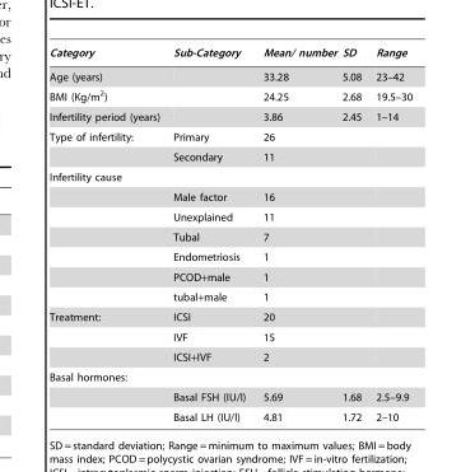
<table><thead><tr><td>Category</td><td>Sub-Category</td><td>Mean/ number</td><td>SD</td><td>Range</td></tr></thead><tbody><tr><td>Age (years)</td><td></td><td>33.28</td><td>5.08</td><td>23–42</td></tr><tr><td>BMI (Kg/m<sup>2</sup>)</td><td></td><td>24.25</td><td>2.68</td><td>19.5–30</td></tr><tr><td>Infertility period (years)</td><td></td><td>3.86</td><td>2.45</td><td>1–14</td></tr><tr><td rowspan="2">Type of infertility:</td><td>Primary</td><td>26</td><td></td><td></td></tr><tr><td>Secondary</td><td>11</td><td></td><td></td></tr><tr><td colspan="5">Infertility cause</td></tr><tr><td></td><td>Male factor</td><td>16</td><td></td><td></td></tr><tr><td></td><td>Unexplained</td><td>11</td><td></td><td></td></tr><tr><td></td><td>Tubal</td><td>7</td><td></td><td></td></tr><tr><td></td><td>Endometriosis</td><td>1</td><td></td><td></td></tr><tr><td></td><td>PCOD+male</td><td>1</td><td></td><td></td></tr><tr><td></td><td>tubal+male</td><td>1</td><td></td><td></td></tr><tr><td rowspan="3">Treatment:</td><td>ICSI</td><td>20</td><td></td><td></td></tr><tr><td>IVF</td><td>15</td><td></td><td></td></tr><tr><td>ICSI+IVF</td><td>2</td><td></td><td></td></tr><tr><td colspan="5">Basal hormones:</td></tr><tr><td></td><td>Basal FSH (IU/l)</td><td>5.69</td><td>1.68</td><td>2.5–9.9</td></tr><tr><td></td><td>Basal LH (IU/l)</td><td>4.81</td><td>1.72</td><td>2–10</td></tr></tbody></table>